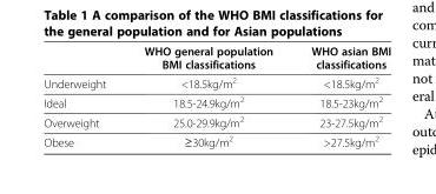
<table><thead><tr><td></td><td>WHO general population BMI classifications</td><td>WHO asian BMI classifications</td></tr></thead><tbody><tr><td>Underweight</td><td>&lt;18.5kg/m<sup>2</sup></td><td>&lt;18.5kg/m<sup>2</sup></td></tr><tr><td>Ideal</td><td>18.5-24.9kg/m<sup>2</sup></td><td>18.5-23kg/m<sup>2</sup></td></tr><tr><td>Overweight</td><td>25.0-29.9kg/m<sup>2</sup></td><td>23-27.5kg/m<sup>2</sup></td></tr><tr><td>Obese</td><td>≥30kg/m<sup>2</sup></td><td>&gt;27.5kg/m<sup>2</sup></td></tr></tbody></table>